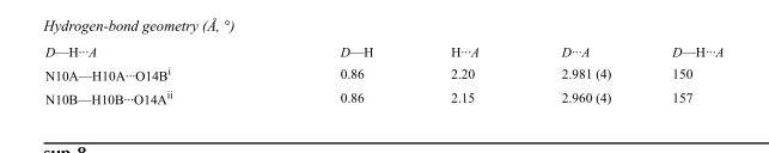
<table><tbody><tr><td>D—H···A</td><td>D—H</td><td>H···A</td><td>D···A</td><td>D—H···A</td></tr><tr><td>N10A—H10A···O14B<sup>i</sup></td><td>0.86</td><td>2.20</td><td>2.981 (4)</td><td>150</td></tr><tr><td>N10B—H10B···O14A<sup>ii</sup></td><td>0.86</td><td>2.15</td><td>2.960 (4)</td><td>157</td></tr></tbody></table>